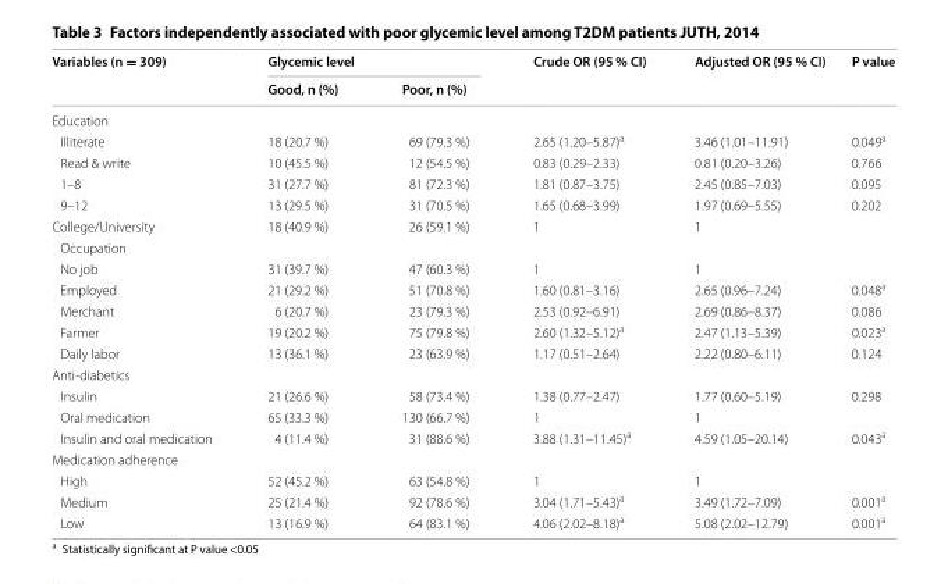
<table><thead><tr><td rowspan="2">Variables (n = 309)</td><td colspan="2">Glycemic level</td><td rowspan="2">Crude OR (95 % CI)</td><td rowspan="2">Adjusted OR (95 % CI)</td><td rowspan="2">P value</td></tr><tr><td>Good, n (%)</td><td>Poor, n (%)</td></tr></thead><tbody><tr><td colspan="6">Education</td></tr><tr><td>Illiterate</td><td>18 (20.7 %)</td><td>69 (79.3 %)</td><td>2.65 (1.20–5.87)<sup>a</sup></td><td>3.46 (1.01–11.91)</td><td>0.049<sup>a</sup></td></tr><tr><td>Read &amp; write</td><td>10 (45.5 %)</td><td>12 (54.5 %)</td><td>0.83 (0.29–2.33)</td><td>0.81 (0.20–3.26)</td><td>0.766</td></tr><tr><td>1–8</td><td>31 (27.7 %)</td><td>81 (72.3 %)</td><td>1.81 (0.87–3.75)</td><td>2.45 (0.85–7.03)</td><td>0.095</td></tr><tr><td>9–12</td><td>13 (29.5 %)</td><td>31 (70.5 %)</td><td>1.65 (0.68–3.99)</td><td>1.97 (0.69–5.55)</td><td>0.202</td></tr><tr><td>College/University</td><td>18 (40.9 %)</td><td>26 (59.1 %)</td><td>1</td><td>1</td><td></td></tr><tr><td colspan="6">Occupation</td></tr><tr><td>No job</td><td>31 (39.7 %)</td><td>47 (60.3 %)</td><td>1</td><td>1</td><td></td></tr><tr><td>Employed</td><td>21 (29.2 %)</td><td>51 (70.8 %)</td><td>1.60 (0.81–3.16)</td><td>2.65 (0.96–7.24)</td><td>0.048<sup>a</sup></td></tr><tr><td>Merchant</td><td>6 (20.7 %)</td><td>23 (79.3 %)</td><td>2.53 (0.92–6.91)</td><td>2.69 (0.86–8.37)</td><td>0.086</td></tr><tr><td>Farmer</td><td>19 (20.2 %)</td><td>75 (79.8 %)</td><td>2.60 (1.32–5.12)<sup>a</sup></td><td>2.47 (1.13–5.39)</td><td>0.023<sup>a</sup></td></tr><tr><td>Daily labor</td><td>13 (36.1 %)</td><td>23 (63.9 %)</td><td>1.17 (0.51–2.64)</td><td>2.22 (0.80–6.11)</td><td>0.124</td></tr><tr><td colspan="6">Anti-diabetics</td></tr><tr><td>Insulin</td><td>21 (26.6 %)</td><td>58 (73.4 %)</td><td>1.38 (0.77–2.47)</td><td>1.77 (0.60–5.19)</td><td>0.298</td></tr><tr><td>Oral medication</td><td>65 (33.3 %)</td><td>130 (66.7 %)</td><td>1</td><td>1</td><td></td></tr><tr><td>Insulin and oral medication</td><td>4 (11.4 %)</td><td>31 (88.6 %)</td><td>3.88 (1.31–11.45)<sup>a</sup></td><td>4.59 (1.05–20.14)</td><td>0.043<sup>a</sup></td></tr><tr><td colspan="6">Medication adherence</td></tr><tr><td>High</td><td>52 (45.2 %)</td><td>63 (54.8 %)</td><td>1</td><td>1</td><td></td></tr><tr><td>Medium</td><td>25 (21.4 %)</td><td>92 (78.6 %)</td><td>3.04 (1.71–5.43)<sup>a</sup></td><td>3.49 (1.72–7.09)</td><td>0.001<sup>a</sup></td></tr><tr><td>Low</td><td>13 (16.9 %)</td><td>64 (83.1 %)</td><td>4.06 (2.02–8.18)<sup>a</sup></td><td>5.08 (2.02–12.79)</td><td>0.001<sup>a</sup></td></tr></tbody></table>